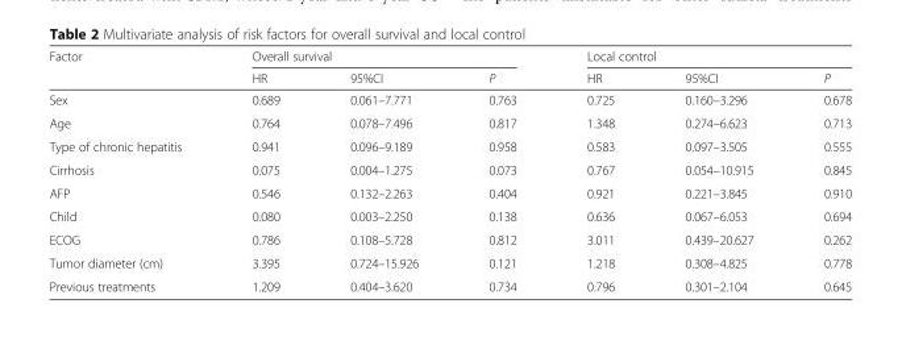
<table><thead><tr><td rowspan="2">Factor</td><td colspan="3">Overall survival</td><td colspan="3">Local control</td></tr><tr><td>HR</td><td>95%CI</td><td>P</td><td>HR</td><td>95%CI</td><td>P</td></tr></thead><tbody><tr><td>Sex</td><td>0.689</td><td>0.061–7.771</td><td>0.763</td><td>0.725</td><td>0.160–3.296</td><td>0.678</td></tr><tr><td>Age</td><td>0.764</td><td>0.078–7.496</td><td>0.817</td><td>1.348</td><td>0.274–6.623</td><td>0.713</td></tr><tr><td>Type of chronic hepatitis</td><td>0.941</td><td>0.096–9.189</td><td>0.958</td><td>0.583</td><td>0.097–3.505</td><td>0.555</td></tr><tr><td>Cirrhosis</td><td>0.075</td><td>0.004–1.275</td><td>0.073</td><td>0.767</td><td>0.054–10.915</td><td>0.845</td></tr><tr><td>AFP</td><td>0.546</td><td>0.132–2.263</td><td>0.404</td><td>0.921</td><td>0.221–3.845</td><td>0.910</td></tr><tr><td>Child</td><td>0.080</td><td>0.003–2.250</td><td>0.138</td><td>0.636</td><td>0.067–6.053</td><td>0.694</td></tr><tr><td>ECOG</td><td>0.786</td><td>0.108–5.728</td><td>0.812</td><td>3.011</td><td>0.439–20.627</td><td>0.262</td></tr><tr><td>Tumor diameter (cm)</td><td>3.395</td><td>0.724–15.926</td><td>0.121</td><td>1.218</td><td>0.308–4.825</td><td>0.778</td></tr><tr><td>Previous treatments</td><td>1.209</td><td>0.404–3.620</td><td>0.734</td><td>0.796</td><td>0.301–2.104</td><td>0.645</td></tr></tbody></table>